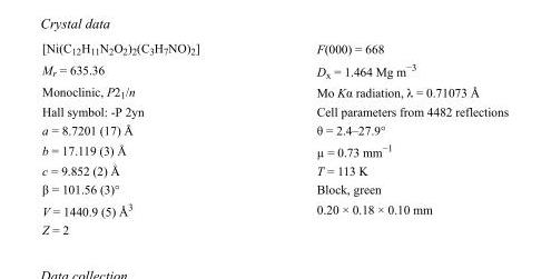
<table><tbody><tr><td>[Ni(C<sub>12</sub>H<sub>11</sub>N<sub>2</sub>O<sub>2</sub>)<sub>2</sub>(C<sub>3</sub>H<sub>7</sub>NO)<sub>2</sub>]</td><td>F(000) = 668</td></tr><tr><td>M<sub>r</sub> = 635.36</td><td>D<sub>x</sub> = 1.464 Mg m<sup>−3</sup></td></tr><tr><td>Monoclinic, P2<sub>1</sub>/n</td><td>Mo Kα radiation, λ = 0.71073 Å</td></tr><tr><td>Hall symbol: -P 2yn</td><td>Cell parameters from 4482 reflections</td></tr><tr><td>a = 8.7201 (17) Å</td><td>θ = 2.4–27.9°</td></tr><tr><td>b = 17.119 (3) Å</td><td>µ = 0.73 mm<sup>−1</sup></td></tr><tr><td>c = 9.852 (2) Å</td><td>T = 113 K</td></tr><tr><td>β = 101.56 (3)°</td><td>Block, green</td></tr><tr><td>V = 1440.9 (5) Å<sup>3</sup></td><td>0.20 × 0.18 × 0.10 mm</td></tr><tr><td>Z = 2</td><td></td></tr></tbody></table>